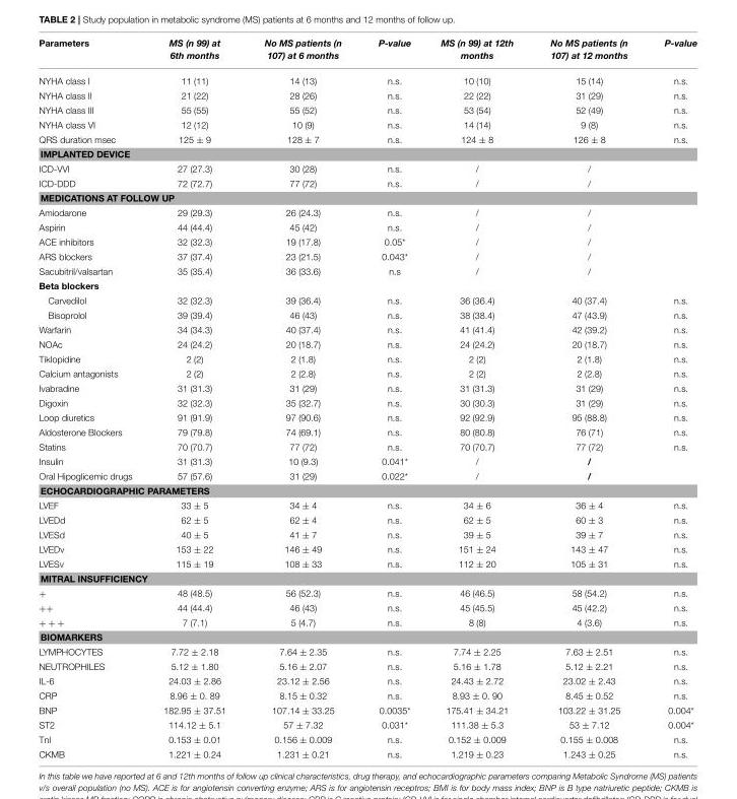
<table><thead><tr><td>Parameters</td><td>MS (n 99) at 6th months</td><td>No MS patients (n 107) at 6 months</td><td>P-value</td><td>MS (n 99) at 12th months</td><td>No MS patients (n 107) at 12 months</td><td>P-value</td></tr></thead><tbody><tr><td>NYHA class I</td><td>11 (11)</td><td>14 (13)</td><td>n.s.</td><td>10 (10)</td><td>15 (14)</td><td>n.s.</td></tr><tr><td>NYHA class II</td><td>21 (22)</td><td>28 (26)</td><td>n.s.</td><td>22 (22)</td><td>31 (29)</td><td>n.s.</td></tr><tr><td>NYHA class III</td><td>55 (55)</td><td>55 (52)</td><td>n.s.</td><td>53 (54)</td><td>52 (49)</td><td>n.s.</td></tr><tr><td>NYHA class VI</td><td>12 (12)</td><td>10 (9)</td><td>n.s.</td><td>14 (14)</td><td>9 (8)</td><td>n.s.</td></tr><tr><td>QRS duration msec</td><td>125 ± 9</td><td>128 ± 7</td><td>n.s.</td><td>124 ± 8</td><td>126 ± 8</td><td>n.s.</td></tr><tr><td colspan="7">IMPLANTED DEVICE</td></tr><tr><td>ICD-VVI</td><td>27 (27.3)</td><td>30 (28)</td><td>n.s.</td><td>/</td><td>/</td><td></td></tr><tr><td>ICD-DDD</td><td>72 (72.7)</td><td>77 (72)</td><td>n.s.</td><td>/</td><td>/</td><td></td></tr><tr><td colspan="7">MEDICATIONS AT FOLLOW UP</td></tr><tr><td>Amiodarone</td><td>29 (29.3)</td><td>26 (24.3)</td><td>n.s.</td><td>/</td><td>/</td><td></td></tr><tr><td>Aspirin</td><td>44 (44.4)</td><td>45 (42)</td><td>n.s.</td><td>/</td><td>/</td><td></td></tr><tr><td>ACE inhibitors</td><td>32 (32.3)</td><td>19 (17.8)</td><td>0.05*</td><td>/</td><td>/</td><td></td></tr><tr><td>ARS blockers</td><td>37 (37.4)</td><td>23 (21.5)</td><td>0.043*</td><td>/</td><td>/</td><td></td></tr><tr><td>Sacubitril/valsartan</td><td>35 (35.4)</td><td>36 (33.6)</td><td>n.s</td><td>/</td><td>/</td><td></td></tr><tr><td colspan="7">Beta blockers</td></tr><tr><td>Carvedilol</td><td>32 (32.3)</td><td>39 (36.4)</td><td>n.s.</td><td>36 (36.4)</td><td>40 (37.4)</td><td>n.s.</td></tr><tr><td>Bisoprolol</td><td>39 (39.4)</td><td>46 (43)</td><td>n.s.</td><td>38 (38.4)</td><td>47 (43.9)</td><td>n.s.</td></tr><tr><td>Warfarin</td><td>34 (34.3)</td><td>40 (37.4)</td><td>n.s.</td><td>41 (41.4)</td><td>42 (39.2)</td><td>n.s.</td></tr><tr><td>NOAc</td><td>24 (24.2)</td><td>20 (18.7)</td><td>n.s.</td><td>24 (24.2)</td><td>20 (18.7)</td><td>n.s.</td></tr><tr><td>Tiklopidine</td><td>2 (2)</td><td>2 (1.8)</td><td>n.s.</td><td>2 (2)</td><td>2 (1.8)</td><td>n.s.</td></tr><tr><td>Calcium antagonists</td><td>2 (2)</td><td>2 (2.8)</td><td>n.s.</td><td>2 (2)</td><td>2 (2.8)</td><td>n.s.</td></tr><tr><td>Ivabradine</td><td>31 (31.3)</td><td>31 (29)</td><td>n.s.</td><td>31 (31.3)</td><td>31 (29)</td><td>n.s.</td></tr><tr><td>Digoxin</td><td>32 (32.3)</td><td>35 (32.7)</td><td>n.s.</td><td>30 (30.3)</td><td>31 (29)</td><td>n.s.</td></tr><tr><td>Loop diuretics</td><td>91 (91.9)</td><td>97 (90.6)</td><td>n.s.</td><td>92 (92.9)</td><td>95 (88.8)</td><td>n.s.</td></tr><tr><td>Aldosterone Blockers</td><td>79 (79.8)</td><td>74 (69.1)</td><td>n.s.</td><td>80 (80.8)</td><td>76 (71)</td><td>n.s.</td></tr><tr><td>Statins</td><td>70 (70.7)</td><td>77 (72)</td><td>n.s.</td><td>70 (70.7)</td><td>77 (72)</td><td>n.s.</td></tr><tr><td>Insulin</td><td>31 (31.3)</td><td>10 (9.3)</td><td>0.041*</td><td>/</td><td>/</td><td></td></tr><tr><td>Oral Hipoglicemic drugs</td><td>57 (57.6)</td><td>31 (29)</td><td>0.022*</td><td>/</td><td>/</td><td></td></tr><tr><td colspan="7">ECHOCARDIOGRAPHIC PARAMETERS</td></tr><tr><td>LVEF</td><td>33 ± 5</td><td>34 ± 4</td><td>n.s.</td><td>34 ± 6</td><td>36 ± 4</td><td>n.s.</td></tr><tr><td>LVEDd</td><td>62 ± 5</td><td>62 ± 4</td><td>n.s.</td><td>62 ± 5</td><td>60 ± 3</td><td>n.s.</td></tr><tr><td>LVESd</td><td>40 ± 5</td><td>41 ± 7</td><td>n.s.</td><td>39 ± 5</td><td>39 ± 7</td><td>n.s.</td></tr><tr><td>LVEDv</td><td>153 ± 22</td><td>146 ± 49</td><td>n.s.</td><td>151 ± 24</td><td>143 ± 47</td><td>n.s.</td></tr><tr><td>LVESv</td><td>115 ± 19</td><td>108 ± 33</td><td>n.s.</td><td>112 ± 20</td><td>105 ± 31</td><td>n.s.</td></tr><tr><td colspan="7">MITRAL INSUFFICIENCY</td></tr><tr><td>+</td><td>48 (48.5)</td><td>56 (52.3)</td><td>n.s.</td><td>46 (46.5)</td><td>58 (54.2)</td><td>n.s.</td></tr><tr><td>++</td><td>44 (44.4)</td><td>46 (43)</td><td>n.s.</td><td>45 (45.5)</td><td>45 (42.2)</td><td>n.s.</td></tr><tr><td>+ + +</td><td>7 (7.1)</td><td>5 (4.7)</td><td>n.s.</td><td>8 (8)</td><td>4 (3.6)</td><td>n.s.</td></tr><tr><td colspan="7">BIOMARKERS</td></tr><tr><td>LYMPHOCYTES</td><td>7.72 ± 2.18</td><td>7.64 ± 2.35</td><td>n.s.</td><td>7.74 ± 2.25</td><td>7.63 ± 2.51</td><td>n.s.</td></tr><tr><td>NEUTROPHILES</td><td>5.12 ± 1.80</td><td>5.16 ± 2.07</td><td>n.s.</td><td>5.16 ± 1.78</td><td>5.12 ± 2.21</td><td>n.s.</td></tr><tr><td>IL-6</td><td>24.03 ± 2.86</td><td>23.12 ± 2.56</td><td>n.s.</td><td>24.43 ± 2.72</td><td>23.02 ± 2.43</td><td>n.s.</td></tr><tr><td>CRP</td><td>8.96 ± 0. 89</td><td>8.15 ± 0.32</td><td>n.s.</td><td>8.93 ± 0. 90</td><td>8.45 ± 0.52</td><td>n.s.</td></tr><tr><td>BNP</td><td>182.95 ± 37.51</td><td>107.14 ± 33.25</td><td>0.0035*</td><td>175.41 ± 34.21</td><td>103.22 ± 31.25</td><td>0.004*</td></tr><tr><td>ST2</td><td>114.12 ± 5.1</td><td>57 ± 7.32</td><td>0.031*</td><td>111.38 ± 5.3</td><td>53 ± 7.12</td><td>0.004*</td></tr><tr><td>TnI</td><td>0.153 ± 0.01</td><td>0.156 ± 0.009</td><td>n.s.</td><td>0.152 ± 0.009</td><td>0.155 ± 0.008</td><td>n.s.</td></tr><tr><td>CKMB</td><td>1.221 ± 0.24</td><td>1.231 ± 0.21</td><td>n.s.</td><td>1.219 ± 0.23</td><td>1.243 ± 0.25</td><td>n.s.</td></tr></tbody></table>